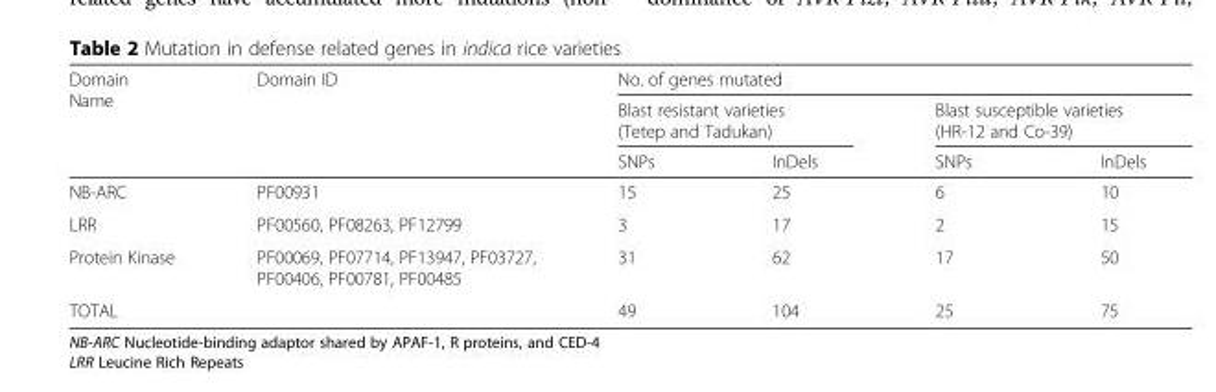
<table><thead><tr><td rowspan="3">Domain Name</td><td rowspan="3">Domain ID</td><td colspan="4">No. of genes mutated</td></tr><tr><td colspan="2">Blast resistant varieties (Tetep and Tadukan)</td><td colspan="2">Blast susceptible varieties (HR-12 and Co-39)</td></tr><tr><td>SNPs</td><td>InDels</td><td>SNPs</td><td>InDels</td></tr></thead><tbody><tr><td>NB-ARC</td><td>PF00931</td><td>15</td><td>25</td><td>6</td><td>10</td></tr><tr><td>LRR</td><td>PF00560, PF08263, PF12799</td><td>3</td><td>17</td><td>2</td><td>15</td></tr><tr><td>Protein Kinase</td><td>PF00069, PF07714, PF13947, PF03727, PF00406, PF00781, PF00485</td><td>31</td><td>62</td><td>17</td><td>50</td></tr><tr><td>TOTAL</td><td></td><td>49</td><td>104</td><td>25</td><td>75</td></tr></tbody></table>